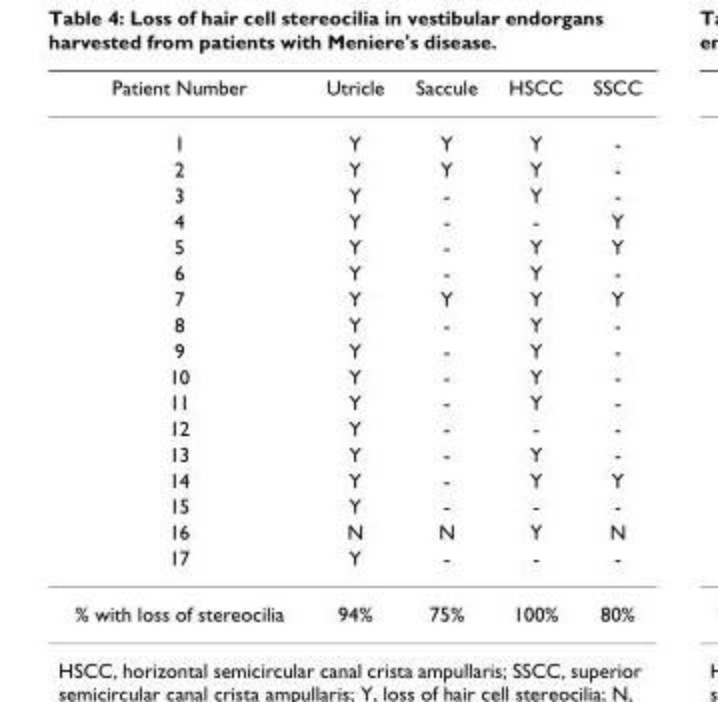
<table><thead><tr><td>Patient Number</td><td>Utricle</td><td>Saccule</td><td>HSCC</td><td>SSCC</td></tr></thead><tbody><tr><td>1</td><td>Y</td><td>Y</td><td>Y</td><td>-</td></tr><tr><td>2</td><td>Y</td><td>Y</td><td>Y</td><td>-</td></tr><tr><td>3</td><td>Y</td><td>-</td><td>Y</td><td>-</td></tr><tr><td>4</td><td>Y</td><td>-</td><td>-</td><td>Y</td></tr><tr><td>5</td><td>Y</td><td>-</td><td>Y</td><td>Y</td></tr><tr><td>6</td><td>Y</td><td>-</td><td>Y</td><td>-</td></tr><tr><td>7</td><td>Y</td><td>Y</td><td>Y</td><td>Y</td></tr><tr><td>8</td><td>Y</td><td>-</td><td>Y</td><td>-</td></tr><tr><td>9</td><td>Y</td><td>-</td><td>Y</td><td>-</td></tr><tr><td>10</td><td>Y</td><td>-</td><td>Y</td><td>-</td></tr><tr><td>11</td><td>Y</td><td>-</td><td>Y</td><td>-</td></tr><tr><td>12</td><td>Y</td><td>-</td><td>-</td><td>-</td></tr><tr><td>13</td><td>Y</td><td>-</td><td>Y</td><td>-</td></tr><tr><td>14</td><td>Y</td><td>-</td><td>Y</td><td>Y</td></tr><tr><td>15</td><td>Y</td><td>-</td><td>-</td><td>-</td></tr><tr><td>16</td><td>N</td><td>N</td><td>Y</td><td>N</td></tr><tr><td>17</td><td>Y</td><td>-</td><td>-</td><td>-</td></tr><tr><td>% with loss of stereocilia</td><td>94%</td><td>75%</td><td>100%</td><td>80%</td></tr></tbody></table>